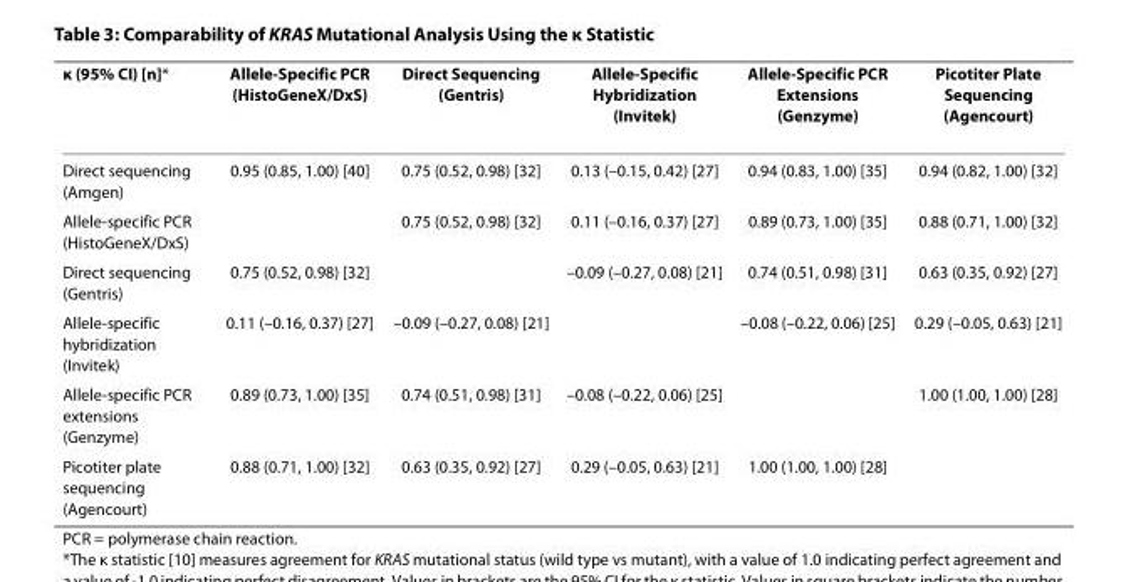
<table><thead><tr><td>κ (95% CI) [n]*</td><td>Allele-Specific PCR (HistoGeneX/DxS)</td><td>Direct Sequencing (Gentris)</td><td>Allele-Specific Hybridization (Invitek)</td><td>Allele-Specific PCR Extensions (Genzyme)</td><td>Picotiter Plate Sequencing (Agencourt)</td></tr></thead><tbody><tr><td>Direct sequencing (Amgen)</td><td>0.95 (0.85, 1.00) [40]</td><td>0.75 (0.52, 0.98) [32]</td><td>0.13 (–0.15, 0.42) [27]</td><td>0.94 (0.83, 1.00) [35]</td><td>0.94 (0.82, 1.00) [32]</td></tr><tr><td>Allele-specific PCR (HistoGeneX/DxS)</td><td></td><td>0.75 (0.52, 0.98) [32]</td><td>0.11 (–0.16, 0.37) [27]</td><td>0.89 (0.73, 1.00) [35]</td><td>0.88 (0.71, 1.00) [32]</td></tr><tr><td>Direct sequencing (Gentris)</td><td>0.75 (0.52, 0.98) [32]</td><td></td><td>–0.09 (–0.27, 0.08) [21]</td><td>0.74 (0.51, 0.98) [31]</td><td>0.63 (0.35, 0.92) [27]</td></tr><tr><td>Allele-specific hybridization (Invitek)</td><td>0.11 (–0.16, 0.37) [27]</td><td>–0.09 (–0.27, 0.08) [21]</td><td></td><td>–0.08 (–0.22, 0.06) [25]</td><td>0.29 (–0.05, 0.63) [21]</td></tr><tr><td>Allele-specific PCR extensions (Genzyme)</td><td>0.89 (0.73, 1.00) [35]</td><td>0.74 (0.51, 0.98) [31]</td><td>–0.08 (–0.22, 0.06) [25]</td><td></td><td>1.00 (1.00, 1.00) [28]</td></tr><tr><td>Picotiter plate sequencing (Agencourt)</td><td>0.88 (0.71, 1.00) [32]</td><td>0.63 (0.35, 0.92) [27]</td><td>0.29 (–0.05, 0.63) [21]</td><td>1.00 (1.00, 1.00) [28]</td><td></td></tr></tbody></table>